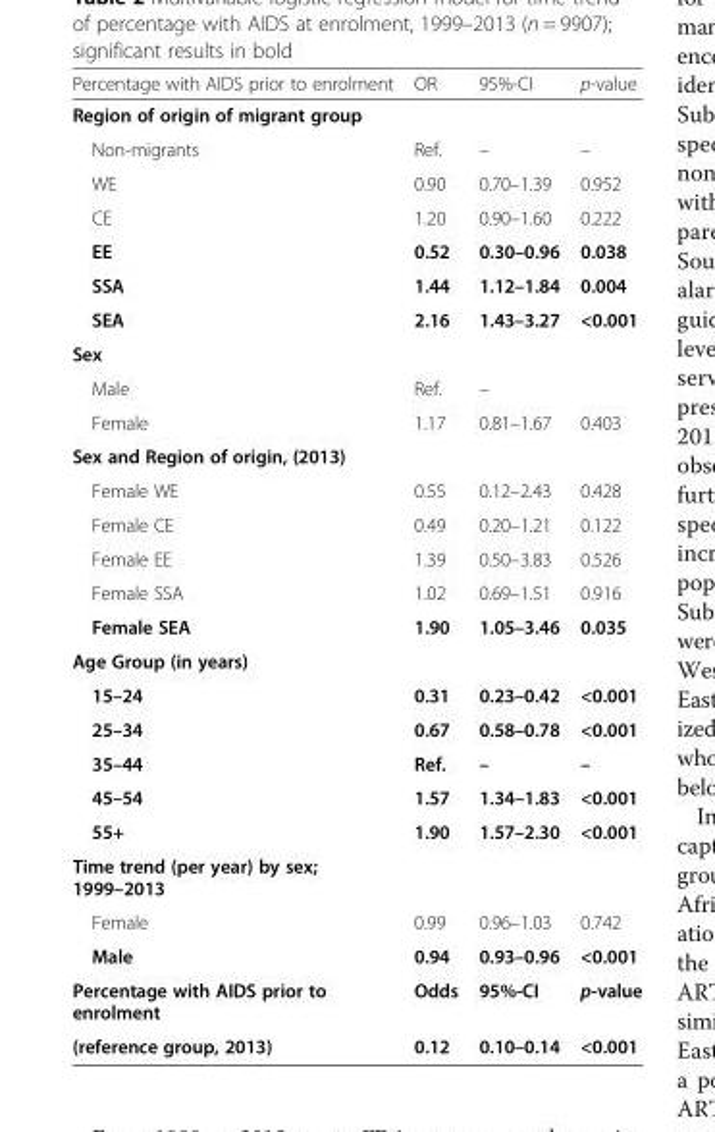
<table><thead><tr><td>Percentage with AIDS prior to enrolment</td><td>OR</td><td>95%-CI</td><td>p-value</td></tr></thead><tbody><tr><td colspan="4">Region of origin of migrant group</td></tr><tr><td>Non-migrants</td><td>Ref.</td><td>–</td><td>–</td></tr><tr><td>WE</td><td>0.90</td><td>0.70–1.39</td><td>0.952</td></tr><tr><td>CE</td><td>1.20</td><td>0.90–1.60</td><td>0.222</td></tr><tr><td>EE</td><td>0.52</td><td>0.30–0.96</td><td>0.038</td></tr><tr><td>SSA</td><td>1.44</td><td>1.12–1.84</td><td>0.004</td></tr><tr><td>SEA</td><td>2.16</td><td>1.43–3.27</td><td>&lt;0.001</td></tr><tr><td colspan="4">Sex</td></tr><tr><td>Male</td><td>Ref.</td><td>–</td><td></td></tr><tr><td>Female</td><td>1.17</td><td>0.81–1.67</td><td>0.403</td></tr><tr><td colspan="4">Sex and Region of origin, (2013)</td></tr><tr><td>Female WE</td><td>0.55</td><td>0.12–2.43</td><td>0.428</td></tr><tr><td>Female CE</td><td>0.49</td><td>0.20–1.21</td><td>0.122</td></tr><tr><td>Female EE</td><td>1.39</td><td>0.50–3.83</td><td>0.526</td></tr><tr><td>Female SSA</td><td>1.02</td><td>0.69–1.51</td><td>0.916</td></tr><tr><td>Female SEA</td><td>1.90</td><td>1.05–3.46</td><td>0.035</td></tr><tr><td colspan="4">Age Group (in years)</td></tr><tr><td>15–24</td><td>0.31</td><td>0.23–0.42</td><td>&lt;0.001</td></tr><tr><td>25–34</td><td>0.67</td><td>0.58–0.78</td><td>&lt;0.001</td></tr><tr><td>35–44</td><td>Ref.</td><td>–</td><td>–</td></tr><tr><td>45–54</td><td>1.57</td><td>1.34–1.83</td><td>&lt;0.001</td></tr><tr><td>55+</td><td>1.90</td><td>1.57–2.30</td><td>&lt;0.001</td></tr><tr><td colspan="4">Time trend (per year) by sex; 1999–2013</td></tr><tr><td>Female</td><td>0.99</td><td>0.96–1.03</td><td>0.742</td></tr><tr><td>Male</td><td>0.94</td><td>0.93–0.96</td><td>&lt;0.001</td></tr><tr><td>Percentage with AIDS prior to enrolment</td><td>Odds</td><td>95%-CI</td><td>p-value</td></tr><tr><td>(reference group, 2013)</td><td>0.12</td><td>0.10–0.14</td><td>&lt;0.001</td></tr></tbody></table>